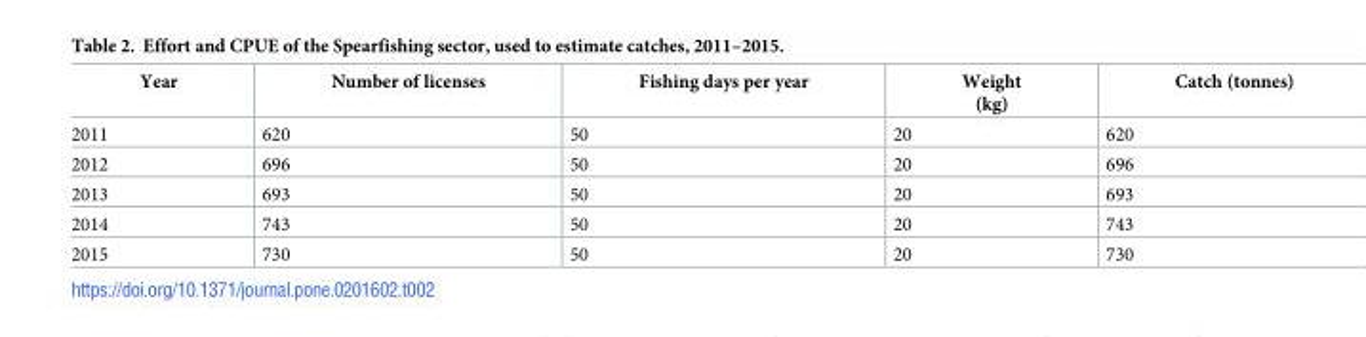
<table><thead><tr><td>Year</td><td>Number of licenses</td><td>Fishing days per year</td><td>Weight (kg)</td><td>Catch (tonnes)</td></tr></thead><tbody><tr><td>2011</td><td>620</td><td>50</td><td>20</td><td>620</td></tr><tr><td>2012</td><td>696</td><td>50</td><td>20</td><td>696</td></tr><tr><td>2013</td><td>693</td><td>50</td><td>20</td><td>693</td></tr><tr><td>2014</td><td>743</td><td>50</td><td>20</td><td>743</td></tr><tr><td>2015</td><td>730</td><td>50</td><td>20</td><td>730</td></tr></tbody></table>